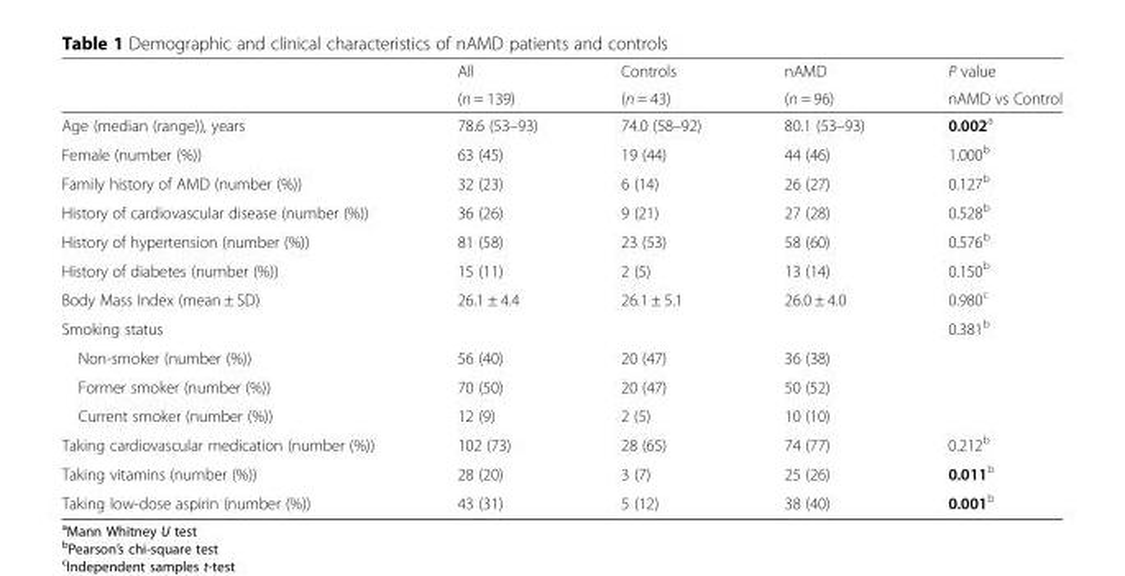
<table><thead><tr><td rowspan="2"></td><td rowspan="2">All (n = 139)</td><td rowspan="2">Controls (n = 43)</td><td rowspan="2">nAMD (n = 96)</td><td rowspan="2">P value nAMD vs Control</td></tr><tr></tr></thead><tbody><tr><td>Age (median (range)), years</td><td>78.6 (53–93)</td><td>74.0 (58–92)</td><td>80.1 (53–93)</td><td>0.002<sup>a</sup></td></tr><tr><td>Female (number (%))</td><td>63 (45)</td><td>19 (44)</td><td>44 (46)</td><td>1.000<sup>b</sup></td></tr><tr><td>Family history of AMD (number (%))</td><td>32 (23)</td><td>6 (14)</td><td>26 (27)</td><td>0.127<sup>b</sup></td></tr><tr><td>History of cardiovascular disease (number (%))</td><td>36 (26)</td><td>9 (21)</td><td>27 (28)</td><td>0.528<sup>b</sup></td></tr><tr><td>History of hypertension (number (%))</td><td>81 (58)</td><td>23 (53)</td><td>58 (60)</td><td>0.576<sup>b</sup></td></tr><tr><td>History of diabetes (number (%))</td><td>15 (11)</td><td>2 (5)</td><td>13 (14)</td><td>0.150<sup>b</sup></td></tr><tr><td>Body Mass Index (mean ± SD)</td><td>26.1 ± 4.4</td><td>26.1 ± 5.1</td><td>26.0 ± 4.0</td><td>0.980<sup>c</sup></td></tr><tr><td>Smoking status</td><td></td><td></td><td></td><td>0.381<sup>b</sup></td></tr><tr><td>Non-smoker (number (%))</td><td>56 (40)</td><td>20 (47)</td><td>36 (38)</td><td></td></tr><tr><td>Former smoker (number (%))</td><td>70 (50)</td><td>20 (47)</td><td>50 (52)</td><td></td></tr><tr><td>Current smoker (number (%))</td><td>12 (9)</td><td>2 (5)</td><td>10 (10)</td><td></td></tr><tr><td>Taking cardiovascular medication (number (%))</td><td>102 (73)</td><td>28 (65)</td><td>74 (77)</td><td>0.212<sup>b</sup></td></tr><tr><td>Taking vitamins (number (%))</td><td>28 (20)</td><td>3 (7)</td><td>25 (26)</td><td>0.011<sup>b</sup></td></tr><tr><td>Taking low-dose aspirin (number (%))</td><td>43 (31)</td><td>5 (12)</td><td>38 (40)</td><td>0.001<sup>b</sup></td></tr></tbody></table>